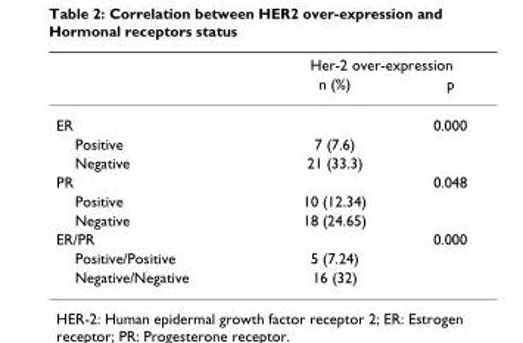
<table><thead><tr><td rowspan="2"></td><td colspan="2">Her-2 over-expression</td></tr><tr><td>n (%)</td><td>p</td></tr></thead><tbody><tr><td>ER</td><td></td><td>0.000</td></tr><tr><td>Positive</td><td>7 (7.6)</td><td></td></tr><tr><td>Negative</td><td>21 (33.3)</td><td></td></tr><tr><td>PR</td><td></td><td>0.048</td></tr><tr><td>Positive</td><td>10 (12.34)</td><td></td></tr><tr><td>Negative</td><td>18 (24.65)</td><td></td></tr><tr><td>ER/PR</td><td></td><td>0.000</td></tr><tr><td>Positive/Positive</td><td>5 (7.24)</td><td></td></tr><tr><td>Negative/Negative</td><td>16 (32)</td><td></td></tr></tbody></table>